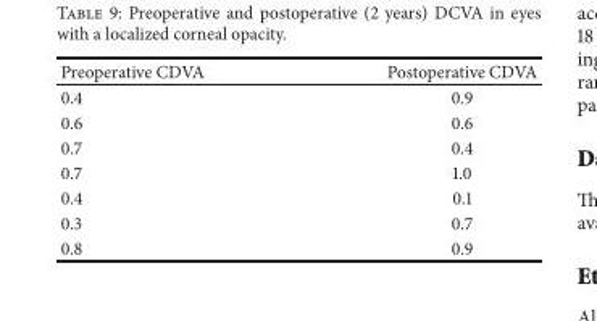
<table><thead><tr><td>Preoperative CDVA</td><td>Postoperative CDVA</td></tr></thead><tbody><tr><td>0.4</td><td>0.9</td></tr><tr><td>0.6</td><td>0.6</td></tr><tr><td>0.7</td><td>0.4</td></tr><tr><td>0.7</td><td>1.0</td></tr><tr><td>0.4</td><td>0.1</td></tr><tr><td>0.3</td><td>0.7</td></tr><tr><td>0.8</td><td>0.9</td></tr></tbody></table>